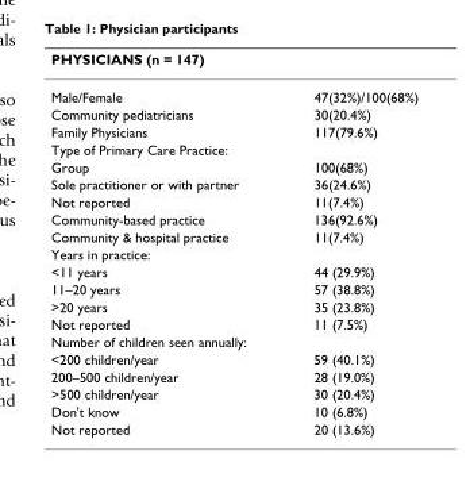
<table><thead><tr><td>PHYSICIANS (n = 147)</td><td></td></tr></thead><tbody><tr><td>Male/Female</td><td>47(32%)/100(68%)</td></tr><tr><td>Community pediatricians</td><td>30(20.4%)</td></tr><tr><td>Family Physicians</td><td>117(79.6%)</td></tr><tr><td colspan="2">Type of Primary Care Practice:</td></tr><tr><td>Group</td><td>100(68%)</td></tr><tr><td>Sole practitioner or with partner</td><td>36(24.6%)</td></tr><tr><td>Not reported</td><td>11(7.4%)</td></tr><tr><td>Community-based practice</td><td>136(92.6%)</td></tr><tr><td>Community &amp; hospital practice</td><td>11(7.4%)</td></tr><tr><td colspan="2">Years in practice:</td></tr><tr><td>&lt;11 years</td><td>44 (29.9%)</td></tr><tr><td>11–20 years</td><td>57 (38.8%)</td></tr><tr><td>&gt;20 years</td><td>35 (23.8%)</td></tr><tr><td>Not reported</td><td>11 (7.5%)</td></tr><tr><td colspan="2">Number of children seen annually:</td></tr><tr><td>&lt;200 children/year</td><td>59 (40.1%)</td></tr><tr><td>200–500 children/year</td><td>28 (19.0%)</td></tr><tr><td>&gt;500 children/year</td><td>30 (20.4%)</td></tr><tr><td>Don&#x27;t know</td><td>10 (6.8%)</td></tr><tr><td>Not reported</td><td>20 (13.6%)</td></tr></tbody></table>